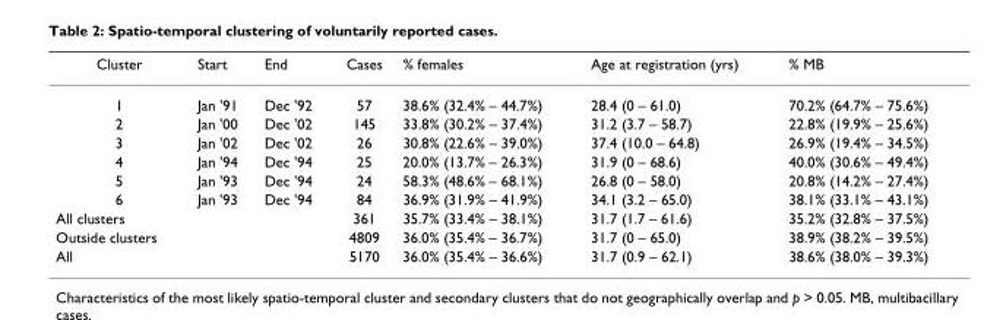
<table><thead><tr><td>Cluster</td><td>Start</td><td>End</td><td>Cases</td><td>% females</td><td>Age at registration (yrs)</td><td>% MB</td></tr></thead><tbody><tr><td>1</td><td>Jan &#x27;91</td><td>Dec &#x27;92</td><td>57</td><td>38.6% (32.4% – 44.7%)</td><td>28.4 (0 – 61.0)</td><td>70.2% (64.7% – 75.6%)</td></tr><tr><td>2</td><td>Jan &#x27;00</td><td>Dec &#x27;02</td><td>145</td><td>33.8% (30.2% – 37.4%)</td><td>31.2 (3.7 – 58.7)</td><td>22.8% (19.9% – 25.6%)</td></tr><tr><td>3</td><td>Jan &#x27;02</td><td>Dec &#x27;02</td><td>26</td><td>30.8% (22.6% – 39.0%)</td><td>37.4 (10.0 – 64.8)</td><td>26.9% (19.4% – 34.5%)</td></tr><tr><td>4</td><td>Jan &#x27;94</td><td>Dec &#x27;94</td><td>25</td><td>20.0% (13.7% – 26.3%)</td><td>31.9 (0 – 68.6)</td><td>40.0% (30.6% – 49.4%)</td></tr><tr><td>5</td><td>Jan &#x27;93</td><td>Dec &#x27;94</td><td>24</td><td>58.3% (48.6% – 68.1%)</td><td>26.8 (0 – 58.0)</td><td>20.8% (14.2% – 27.4%)</td></tr><tr><td>6</td><td>Jan &#x27;93</td><td>Dec &#x27;94</td><td>84</td><td>36.9% (31.9% – 41.9%)</td><td>34.1 (3.2 – 65.0)</td><td>38.1% (33.1% – 43.1%)</td></tr><tr><td>All clusters</td><td></td><td></td><td>361</td><td>35.7% (33.4% – 38.1%)</td><td>31.7 (1.7 – 61.6)</td><td>35.2% (32.8% – 37.5%)</td></tr><tr><td>Outside clusters</td><td></td><td></td><td>4809</td><td>36.0% (35.4% – 36.7%)</td><td>31.7 (0 – 65.0)</td><td>38.9% (38.2% – 39.5%)</td></tr><tr><td>All</td><td></td><td></td><td>5170</td><td>36.0% (35.4% – 36.6%)</td><td>31.7 (0.9 – 62.1)</td><td>38.6% (38.0% – 39.3%)</td></tr></tbody></table>